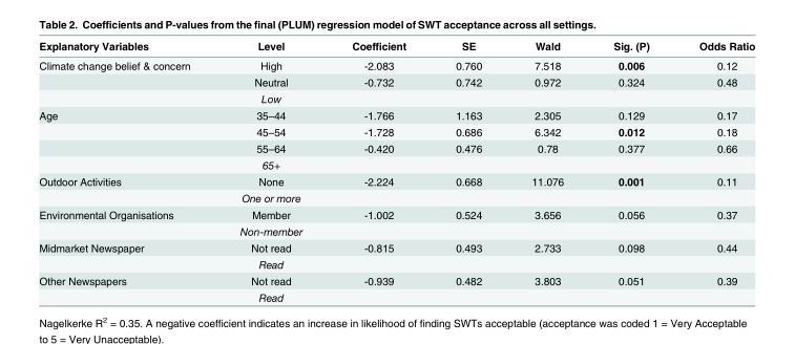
<table><thead><tr><td>Explanatory Variables</td><td>Level</td><td>Coefficient</td><td>SE</td><td>Wald</td><td>Sig. (P)</td><td>Odds Ratio</td></tr></thead><tbody><tr><td rowspan="3">Climate change belief &amp; concern</td><td>High</td><td>-2.083</td><td>0.760</td><td>7.518</td><td>0.006</td><td>0.12</td></tr><tr><td>Neutral</td><td>-0.732</td><td>0.742</td><td>0.972</td><td>0.324</td><td>0.48</td></tr><tr><td>Low</td><td></td><td></td><td></td><td></td><td></td></tr><tr><td rowspan="4">Age</td><td>35–44</td><td>-1.766</td><td>1.163</td><td>2.305</td><td>0.129</td><td>0.17</td></tr><tr><td>45–54</td><td>-1.728</td><td>0.686</td><td>6.342</td><td>0.012</td><td>0.18</td></tr><tr><td>55–64</td><td>-0.420</td><td>0.476</td><td>0.78</td><td>0.377</td><td>0.66</td></tr><tr><td>65+</td><td></td><td></td><td></td><td></td><td></td></tr><tr><td rowspan="2">Outdoor Activities</td><td>None</td><td>-2.224</td><td>0.668</td><td>11.076</td><td>0.001</td><td>0.11</td></tr><tr><td>One or more</td><td></td><td></td><td></td><td></td><td></td></tr><tr><td rowspan="2">Environmental Organisations</td><td>Member</td><td>-1.002</td><td>0.524</td><td>3.656</td><td>0.056</td><td>0.37</td></tr><tr><td>Non-member</td><td></td><td></td><td></td><td></td><td></td></tr><tr><td rowspan="2">Midmarket Newspaper</td><td>Not read</td><td>-0.815</td><td>0.493</td><td>2.733</td><td>0.098</td><td>0.44</td></tr><tr><td>Read</td><td></td><td></td><td></td><td></td><td></td></tr><tr><td rowspan="2">Other Newspapers</td><td>Not read</td><td>-0.939</td><td>0.482</td><td>3.803</td><td>0.051</td><td>0.39</td></tr><tr><td>Read</td><td></td><td></td><td></td><td></td><td></td></tr></tbody></table>